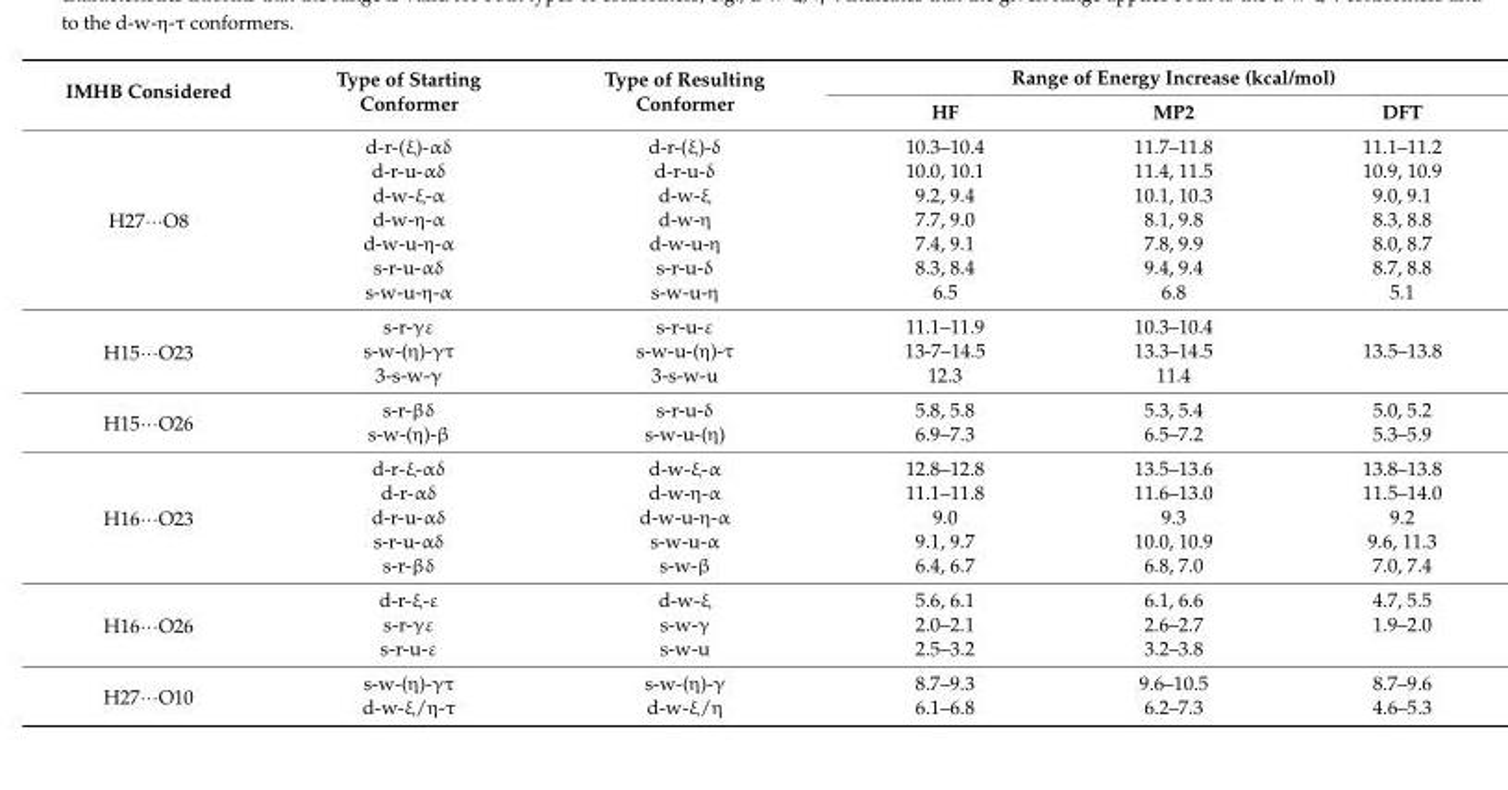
<table><thead><tr><td rowspan="2">IMHB Considered</td><td rowspan="2">Type of Starting Conformer</td><td rowspan="2">Type of Resulting Conformer</td><td colspan="3">Range of Energy Increase (kcal/mol)</td></tr><tr><td>HF</td><td>MP2</td><td>DFT</td></tr></thead><tbody><tr><td rowspan="7">H27···O8</td><td>d-r-(ξ)-αδ</td><td>d-r-(ξ)-δ</td><td>10.3–10.4</td><td>11.7–11.8</td><td>11.1–11.2</td></tr><tr><td>d-r-u-αδ</td><td>d-r-u-δ</td><td>10.0, 10.1</td><td>11.4, 11.5</td><td>10.9, 10.9</td></tr><tr><td>d-w-ξ-α</td><td>d-w-ξ</td><td>9.2, 9.4</td><td>10.1, 10.3</td><td>9.0, 9.1</td></tr><tr><td>d-w-η-α</td><td>d-w-η</td><td>7.7, 9.0</td><td>8.1, 9.8</td><td>8.3, 8.8</td></tr><tr><td>d-w-u-η-α</td><td>d-w-u-η</td><td>7.4, 9.1</td><td>7.8, 9.9</td><td>8.0, 8.7</td></tr><tr><td>s-r-u-αδ</td><td>s-r-u-δ</td><td>8.3, 8.4</td><td>9.4, 9.4</td><td>8.7, 8.8</td></tr><tr><td>s-w-u-η-α</td><td>s-w-u-η</td><td>6.5</td><td>6.8</td><td>5.1</td></tr><tr><td rowspan="3">H15···O23</td><td>s-r-γε</td><td>s-r-u-ε</td><td>11.1–11.9</td><td>10.3–10.4</td><td></td></tr><tr><td>s-w-(η)-γτ</td><td>s-w-u-(η)-τ</td><td>13-7–14.5</td><td>13.3–14.5</td><td>13.5–13.8</td></tr><tr><td>3-s-w-γ</td><td>3-s-w-u</td><td>12.3</td><td>11.4</td><td></td></tr><tr><td rowspan="2">H15···O26</td><td>s-r-βδ</td><td>s-r-u-δ</td><td>5.8, 5.8</td><td>5.3, 5.4</td><td>5.0, 5.2</td></tr><tr><td>s-w-(η)-β</td><td>s-w-u-(η)</td><td>6.9–7.3</td><td>6.5–7.2</td><td>5.3–5.9</td></tr><tr><td rowspan="5">H16···O23</td><td>d-r-ξ-αδ</td><td>d-w-ξ-α</td><td>12.8–12.8</td><td>13.5–13.6</td><td>13.8–13.8</td></tr><tr><td>d-r-αδ</td><td>d-w-η-α</td><td>11.1–11.8</td><td>11.6–13.0</td><td>11.5–14.0</td></tr><tr><td>d-r-u-αδ</td><td>d-w-u-η-α</td><td>9.0</td><td>9.3</td><td>9.2</td></tr><tr><td>s-r-u-αδ</td><td>s-w-u-α</td><td>9.1, 9.7</td><td>10.0, 10.9</td><td>9.6, 11.3</td></tr><tr><td>s-r-βδ</td><td>s-w-β</td><td>6.4, 6.7</td><td>6.8, 7.0</td><td>7.0, 7.4</td></tr><tr><td rowspan="3">H16···O26</td><td>d-r-ξ-ε</td><td>d-w-ξ</td><td>5.6, 6.1</td><td>6.1, 6.6</td><td>4.7, 5.5</td></tr><tr><td>s-r-γε</td><td>s-w-γ</td><td>2.0–2.1</td><td>2.6–2.7</td><td>1.9–2.0</td></tr><tr><td>s-r-u-ε</td><td>s-w-u</td><td>2.5–3.2</td><td>3.2–3.8</td><td></td></tr><tr><td rowspan="2">H27···O10</td><td>s-w-(η)-γτ</td><td>s-w-(η)-γ</td><td>8.7–9.3</td><td>9.6–10.5</td><td>8.7–9.6</td></tr><tr><td>d-w-ξ/η-τ</td><td>d-w-ξ/η</td><td>6.1–6.8</td><td>6.2–7.3</td><td>4.6–5.3</td></tr></tbody></table>